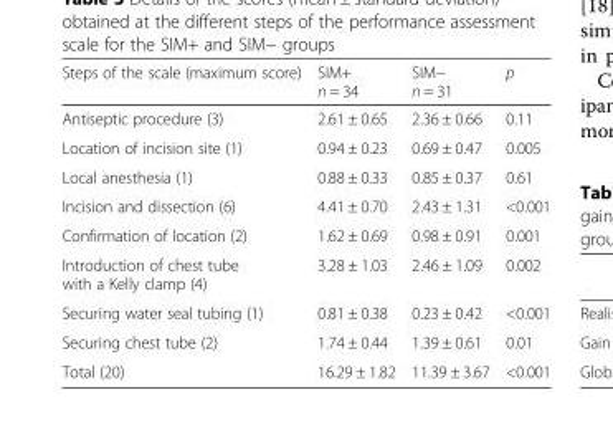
<table><thead><tr><td>Steps of the scale (maximum score)</td><td>SIM+ n = 34</td><td>SIM− n = 31</td><td>p</td></tr></thead><tbody><tr><td>Antiseptic procedure (3)</td><td>2.61 ± 0.65</td><td>2.36 ± 0.66</td><td>0.11</td></tr><tr><td>Location of incision site (1)</td><td>0.94 ± 0.23</td><td>0.69 ± 0.47</td><td>0.005</td></tr><tr><td>Local anesthesia (1)</td><td>0.88 ± 0.33</td><td>0.85 ± 0.37</td><td>0.61</td></tr><tr><td>Incision and dissection (6)</td><td>4.41 ± 0.70</td><td>2.43 ± 1.31</td><td>&lt;0.001</td></tr><tr><td>Confirmation of location (2)</td><td>1.62 ± 0.69</td><td>0.98 ± 0.91</td><td>0.001</td></tr><tr><td>Introduction of chest tube with a Kelly clamp (4)</td><td>3.28 ± 1.03</td><td>2.46 ± 1.09</td><td>0.002</td></tr><tr><td>Securing water seal tubing (1)</td><td>0.81 ± 0.38</td><td>0.23 ± 0.42</td><td>&lt;0.001</td></tr><tr><td>Securing chest tube (2)</td><td>1.74 ± 0.44</td><td>1.39 ± 0.61</td><td>0.01</td></tr><tr><td>Total (20)</td><td>16.29 ± 1.82</td><td>11.39 ± 3.67</td><td>&lt;0.001</td></tr></tbody></table>